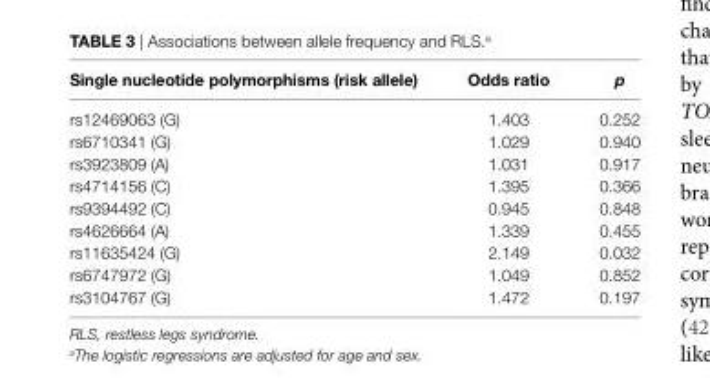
<table><thead><tr><td>single nucleotide polymorphisms (risk allele)</td><td>Odds ratio</td><td>p</td></tr></thead><tbody><tr><td>rs12469063 (G)</td><td>1.403</td><td>0.252</td></tr><tr><td>rs6710341 (G)</td><td>1.029</td><td>0.940</td></tr><tr><td>rs3923809 (A)</td><td>1.031</td><td>0.917</td></tr><tr><td>rs4714156 (C)</td><td>1.395</td><td>0.366</td></tr><tr><td>rs9394492 (C)</td><td>0.945</td><td>0.848</td></tr><tr><td>rs4626664 (A)</td><td>1.339</td><td>0.455</td></tr><tr><td>rs11635424 (G)</td><td>2.149</td><td>0.032</td></tr><tr><td>rs6747972 (G)</td><td>1.049</td><td>0.852</td></tr><tr><td>rs3104767 (G)</td><td>1.472</td><td>0.197</td></tr></tbody></table>